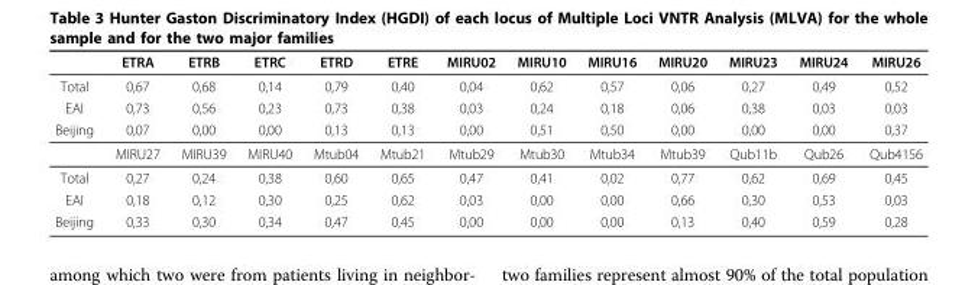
<table><thead><tr><td></td><td>ETRA</td><td>ETRB</td><td>ETRC</td><td>ETRD</td><td>ETRE</td><td>MIRU02</td><td>MIRU10</td><td>MIRU16</td><td>MIRU20</td><td>MIRU23</td><td>MIRU24</td><td>MIRU26</td></tr></thead><tbody><tr><td>Total</td><td>0,67</td><td>0,68</td><td>0,14</td><td>0,79</td><td>0,40</td><td>0,04</td><td>0,62</td><td>0,57</td><td>0,06</td><td>0,27</td><td>0,49</td><td>0,52</td></tr><tr><td>EAI</td><td>0,73</td><td>0,56</td><td>0,23</td><td>0,73</td><td>0,38</td><td>0,03</td><td>0,24</td><td>0,18</td><td>0,06</td><td>0,38</td><td>0,03</td><td>0,03</td></tr><tr><td rowspan="2">Beijing</td><td>0,07</td><td>0,00</td><td>0,00</td><td>0,13</td><td>0,13</td><td>0,00</td><td>0,51</td><td>0,50</td><td>0,00</td><td>0,00</td><td>0,00</td><td>0,37</td></tr><tr><td>MIRU27</td><td>MIRU39</td><td>MIRU40</td><td>Mtub04</td><td>Mtub21</td><td>Mtub29</td><td>Mtub30</td><td>Mtub34</td><td>Mtub39</td><td>Qub11b</td><td>Qub26</td><td>Qub4156</td></tr><tr><td>Total</td><td>0,27</td><td>0,24</td><td>0,38</td><td>0,60</td><td>0,65</td><td>0,47</td><td>0,41</td><td>0,02</td><td>0,77</td><td>0,62</td><td>0,69</td><td>0,45</td></tr><tr><td>EAI</td><td>0,18</td><td>0,12</td><td>0,30</td><td>0,25</td><td>0,62</td><td>0,03</td><td>0,00</td><td>0,00</td><td>0,66</td><td>0,30</td><td>0,53</td><td>0,03</td></tr><tr><td>Beijing</td><td>0,33</td><td>0,30</td><td>0,34</td><td>0,47</td><td>0,45</td><td>0,00</td><td>0,00</td><td>0,00</td><td>0,13</td><td>0,40</td><td>0,59</td><td>0,28</td></tr></tbody></table>